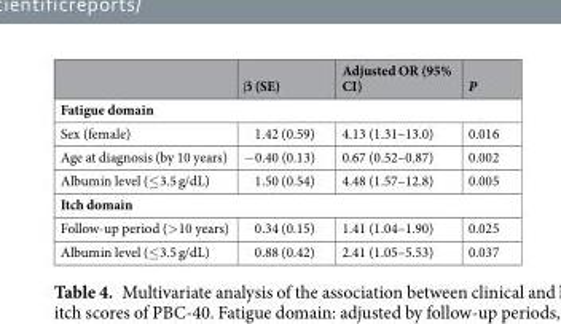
<table><thead><tr><td></td><td>β (SE)</td><td>Adjusted OR (95% CI)</td><td>P</td></tr></thead><tbody><tr><td colspan="4">Fatigue domain</td></tr><tr><td>Sex (female)</td><td>1.42 (0.59)</td><td>4.13 (1.31–13.0)</td><td>0.016</td></tr><tr><td>Age at diagnosis (by 10 years)</td><td>−0.40 (0.13)</td><td>0.67 (0.52–0.87)</td><td>0.002</td></tr><tr><td>Albumin level (≤3.5 g/dL)</td><td>1.50 (0.54)</td><td>4.48 (1.57–12.8)</td><td>0.005</td></tr><tr><td colspan="4">Itch domain</td></tr><tr><td>Follow-up period (&gt;10 years)</td><td>0.34 (0.15)</td><td>1.41 (1.04–1.90)</td><td>0.025</td></tr><tr><td>Albumin level (≤3.5 g/dL)</td><td>0.88 (0.42)</td><td>2.41 (1.05–5.53)</td><td>0.037</td></tr></tbody></table>